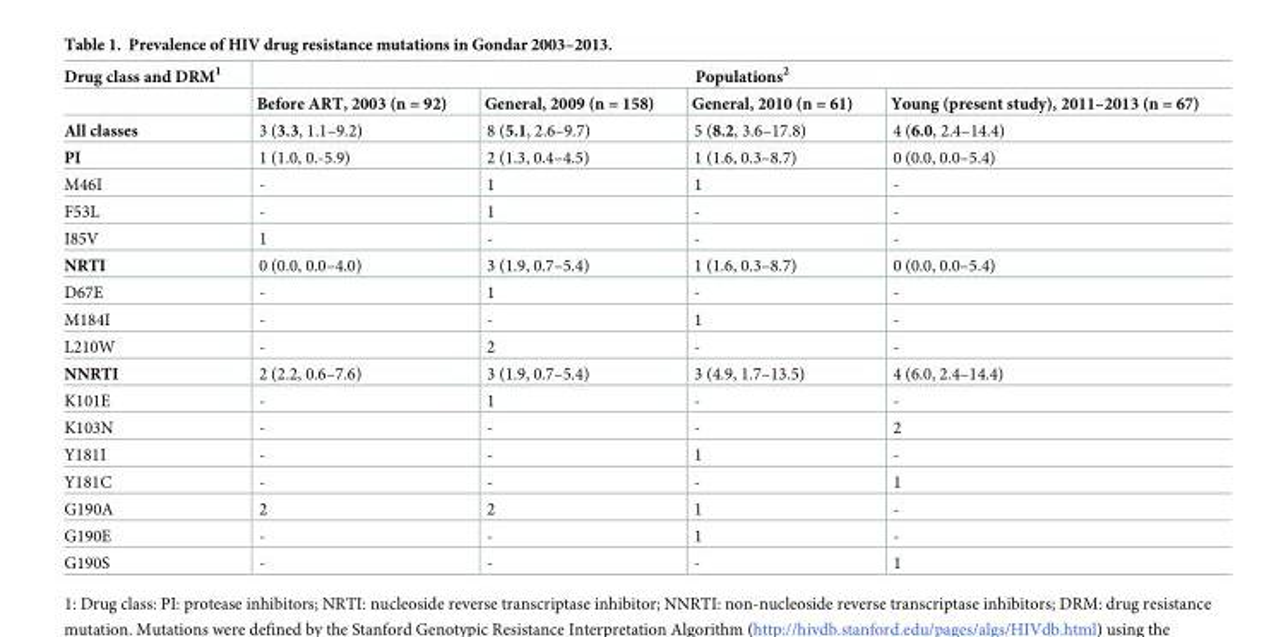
<table><thead><tr><td rowspan="2">Drug class and DRM<sup>1</sup></td><td colspan="4">Populations<sup>2</sup></td></tr><tr><td>Before ART, 2003 (n = 92)</td><td>General, 2009 (n = 158)</td><td>General, 2010 (n = 61)</td><td>Young (present study), 2011–2013 (n = 67)</td></tr></thead><tbody><tr><td>All classes</td><td>3 (3.3, 1.1–9.2)</td><td>8 (5.1, 2.6–9.7)</td><td>5 (8.2, 3.6–17.8)</td><td>4 (6.0, 2.4–14.4)</td></tr><tr><td>PI</td><td>1 (1.0, 0.-5.9)</td><td>2 (1.3, 0.4–4.5)</td><td>1 (1.6, 0.3–8.7)</td><td>0 (0.0, 0.0–5.4)</td></tr><tr><td>M46I</td><td>-</td><td>1</td><td>1</td><td>-</td></tr><tr><td>F53L</td><td>-</td><td>1</td><td>-</td><td>-</td></tr><tr><td>I85V</td><td>1</td><td>-</td><td>-</td><td>-</td></tr><tr><td>NRTI</td><td>0 (0.0, 0.0–4.0)</td><td>3 (1.9, 0.7–5.4)</td><td>1 (1.6, 0.3–8.7)</td><td>0 (0.0, 0.0–5.4)</td></tr><tr><td>D67E</td><td>-</td><td>1</td><td>-</td><td>-</td></tr><tr><td>M184I</td><td>-</td><td>-</td><td>1</td><td>-</td></tr><tr><td>L210W</td><td>-</td><td>2</td><td>-</td><td>-</td></tr><tr><td>NNRTI</td><td>2 (2.2, 0.6–7.6)</td><td>3 (1.9, 0.7–5.4)</td><td>3 (4.9, 1.7–13.5)</td><td>4 (6.0, 2.4–14.4)</td></tr><tr><td>K101E</td><td>-</td><td>1</td><td>-</td><td>-</td></tr><tr><td>K103N</td><td>-</td><td>-</td><td>-</td><td>2</td></tr><tr><td>Y181I</td><td>-</td><td>-</td><td>1</td><td>-</td></tr><tr><td>Y181C</td><td>-</td><td>-</td><td>-</td><td>1</td></tr><tr><td>G190A</td><td>2</td><td>2</td><td>1</td><td>-</td></tr><tr><td>G190E</td><td>-</td><td>-</td><td>1</td><td>-</td></tr><tr><td>G190S</td><td>-</td><td>-</td><td>-</td><td>1</td></tr></tbody></table>